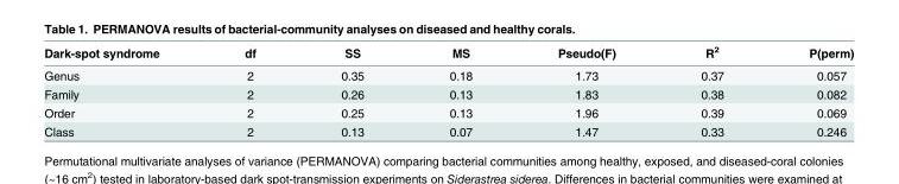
<table><thead><tr><td>Dark-spot syndrome</td><td>df</td><td>SS</td><td>MS</td><td>Pseudo(F)</td><td>R<sup>2</sup></td><td>P(perm)</td></tr></thead><tbody><tr><td>Genus</td><td>2</td><td>0.35</td><td>0.18</td><td>1.73</td><td>0.37</td><td>0.057</td></tr><tr><td>Family</td><td>2</td><td>0.26</td><td>0.13</td><td>1.83</td><td>0.38</td><td>0.082</td></tr><tr><td>Order</td><td>2</td><td>0.25</td><td>0.13</td><td>1.96</td><td>0.39</td><td>0.069</td></tr><tr><td>Class</td><td>2</td><td>0.13</td><td>0.07</td><td>1.47</td><td>0.33</td><td>0.246</td></tr></tbody></table>